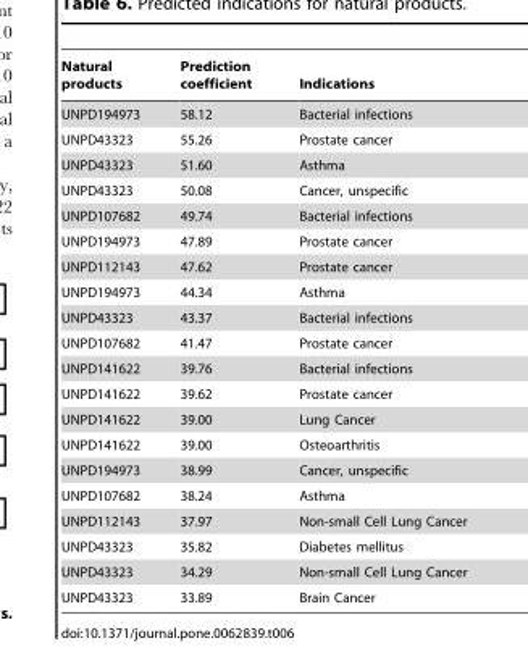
<table><thead><tr><td>Natural products</td><td>Prediction coefficient</td><td>Indications</td></tr></thead><tbody><tr><td>UNPD194973</td><td>58.12</td><td>Bacterial infections</td></tr><tr><td>UNPD43323</td><td>55.26</td><td>Prostate cancer</td></tr><tr><td>UNPD43323</td><td>51.60</td><td>Asthma</td></tr><tr><td>UNPD43323</td><td>50.08</td><td>Cancer, unspecific</td></tr><tr><td>UNPD107682</td><td>49.74</td><td>Bacterial infections</td></tr><tr><td>UNPD194973</td><td>47.89</td><td>Prostate cancer</td></tr><tr><td>UNPD112143</td><td>47.62</td><td>Prostate cancer</td></tr><tr><td>UNPD194973</td><td>44.34</td><td>Asthma</td></tr><tr><td>UNPD43323</td><td>43.37</td><td>Bacterial infections</td></tr><tr><td>UNPD107682</td><td>41.47</td><td>Prostate cancer</td></tr><tr><td>UNPD141622</td><td>39.76</td><td>Bacterial infections</td></tr><tr><td>UNPD141622</td><td>39.62</td><td>Prostate cancer</td></tr><tr><td>UNPD141622</td><td>39.00</td><td>Lung Cancer</td></tr><tr><td>UNPD141622</td><td>39.00</td><td>Osteoarthritis</td></tr><tr><td>UNPD194973</td><td>38.99</td><td>Cancer, unspecific</td></tr><tr><td>UNPD107682</td><td>38.24</td><td>Asthma</td></tr><tr><td>UNPD112143</td><td>37.97</td><td>Non-small Cell Lung Cancer</td></tr><tr><td>UNPD43323</td><td>35.82</td><td>Diabetes mellitus</td></tr><tr><td>UNPD43323</td><td>34.29</td><td>Non-small Cell Lung Cancer</td></tr><tr><td>UNPD43323</td><td>33.89</td><td>Brain Cancer</td></tr></tbody></table>